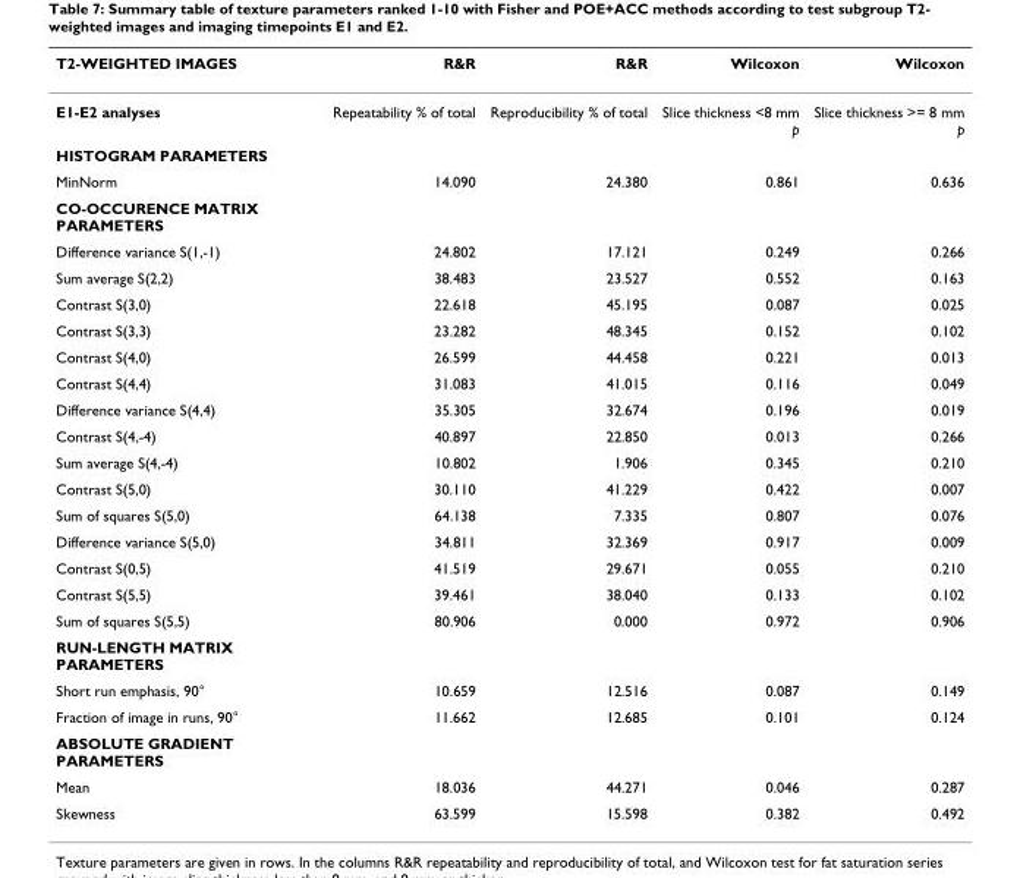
<table><thead><tr><td>T2-WEIGHTED IMAGES</td><td>R&amp;R</td><td>R&amp;R</td><td>Wilcoxon</td><td>Wilcoxon</td></tr></thead><tbody><tr><td>E1-E2 analyses</td><td>Repeatability % of total</td><td>Reproducibility % of total</td><td>Slice thickness &lt;8 mm p</td><td>Slice thickness &gt;= 8 mm p</td></tr><tr><td colspan="5">HISTOGRAM PARAMETERS</td></tr><tr><td>MinNorm</td><td>14.090</td><td>24.380</td><td>0.861</td><td>0.636</td></tr><tr><td colspan="5">CO-OCCURENCE MATRIX PARAMETERS</td></tr><tr><td>Difference variance S(1,-1)</td><td>24.802</td><td>17.121</td><td>0.249</td><td>0.266</td></tr><tr><td>Sum average S(2,2)</td><td>38.483</td><td>23.527</td><td>0.552</td><td>0.163</td></tr><tr><td>Contrast S(3,0)</td><td>22.618</td><td>45.195</td><td>0.087</td><td>0.025</td></tr><tr><td>Contrast S(3,3)</td><td>23.282</td><td>48.345</td><td>0.152</td><td>0.102</td></tr><tr><td>Contrast S(4,0)</td><td>26.599</td><td>44.458</td><td>0.221</td><td>0.013</td></tr><tr><td>Contrast S(4,4)</td><td>31.083</td><td>41.015</td><td>0.116</td><td>0.049</td></tr><tr><td>Difference variance S(4,4)</td><td>35.305</td><td>32.674</td><td>0.196</td><td>0.019</td></tr><tr><td>Contrast S(4,-4)</td><td>40.897</td><td>22.850</td><td>0.013</td><td>0.266</td></tr><tr><td>Sum average S(4,-4)</td><td>10.802</td><td>1.906</td><td>0.345</td><td>0.210</td></tr><tr><td>Contrast S(5,0)</td><td>30.110</td><td>41.229</td><td>0.422</td><td>0.007</td></tr><tr><td>Sum of squares S(5,0)</td><td>64.138</td><td>7.335</td><td>0.807</td><td>0.076</td></tr><tr><td>Difference variance S(5,0)</td><td>34.811</td><td>32.369</td><td>0.917</td><td>0.009</td></tr><tr><td>Contrast S(0,5)</td><td>41.519</td><td>29.671</td><td>0.055</td><td>0.210</td></tr><tr><td>Contrast S(5,5)</td><td>39.461</td><td>38.040</td><td>0.133</td><td>0.102</td></tr><tr><td>Sum of squares S(5,5)</td><td>80.906</td><td>0.000</td><td>0.972</td><td>0.906</td></tr><tr><td colspan="5">RUN-LENGTH MATRIX PARAMETERS</td></tr><tr><td>Short run emphasis, 90°</td><td>10.659</td><td>12.516</td><td>0.087</td><td>0.149</td></tr><tr><td>Fraction of image in runs, 90°</td><td>11.662</td><td>12.685</td><td>0.101</td><td>0.124</td></tr><tr><td colspan="5">ABSOLUTE GRADIENT PARAMETERS</td></tr><tr><td>Mean</td><td>18.036</td><td>44.271</td><td>0.046</td><td>0.287</td></tr><tr><td>Skewness</td><td>63.599</td><td>15.598</td><td>0.382</td><td>0.492</td></tr></tbody></table>